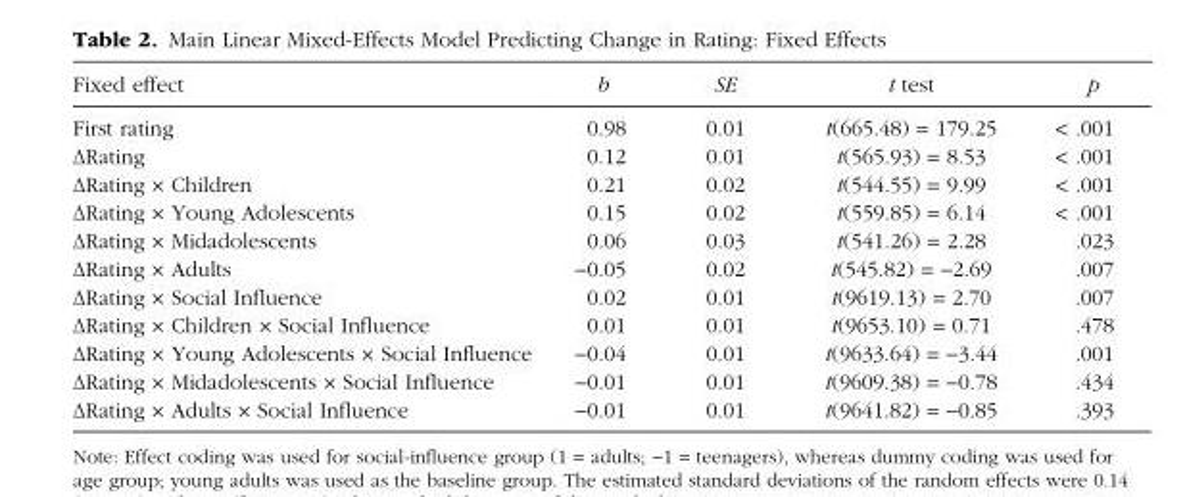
<table><thead><tr><td>Fixed effect</td><td>b</td><td>SE</td><td>t test</td><td>p</td></tr></thead><tbody><tr><td>First rating</td><td>0.98</td><td>0.01</td><td>t(665.48) = 179.25</td><td>&lt; .001</td></tr><tr><td>ΔRating</td><td>0.12</td><td>0.01</td><td>t(565.93) = 8.53</td><td>&lt; .001</td></tr><tr><td>ΔRating × Children</td><td>0.21</td><td>0.02</td><td>t(544.55) = 9.99</td><td>&lt; .001</td></tr><tr><td>ΔRating × Young Adolescents</td><td>0.15</td><td>0.02</td><td>t(559.85) = 6.14</td><td>&lt; .001</td></tr><tr><td>ΔRating × Midadolescents</td><td>0.06</td><td>0.03</td><td>t(541.26) = 2.28</td><td>.023</td></tr><tr><td>ΔRating × Adults</td><td>−0.05</td><td>0.02</td><td>t(545.82) = −2.69</td><td>.007</td></tr><tr><td>ΔRating × Social Influence</td><td>0.02</td><td>0.01</td><td>t(9619.13) = 2.70</td><td>.007</td></tr><tr><td>ΔRating × Children × Social Influence</td><td>0.01</td><td>0.01</td><td>t(9653.10) = 0.71</td><td>.478</td></tr><tr><td>ΔRating × Young Adolescents × Social Influence</td><td>−0.04</td><td>0.01</td><td>t(9633.64) = −3.44</td><td>.001</td></tr><tr><td>ΔRating × Midadolescents × Social Influence</td><td>−0.01</td><td>0.01</td><td>t(9609.38) = −0.78</td><td>.434</td></tr><tr><td>ΔRating × Adults × Social Influence</td><td>−0.01</td><td>0.01</td><td>t(9641.82) = −0.85</td><td>.393</td></tr></tbody></table>